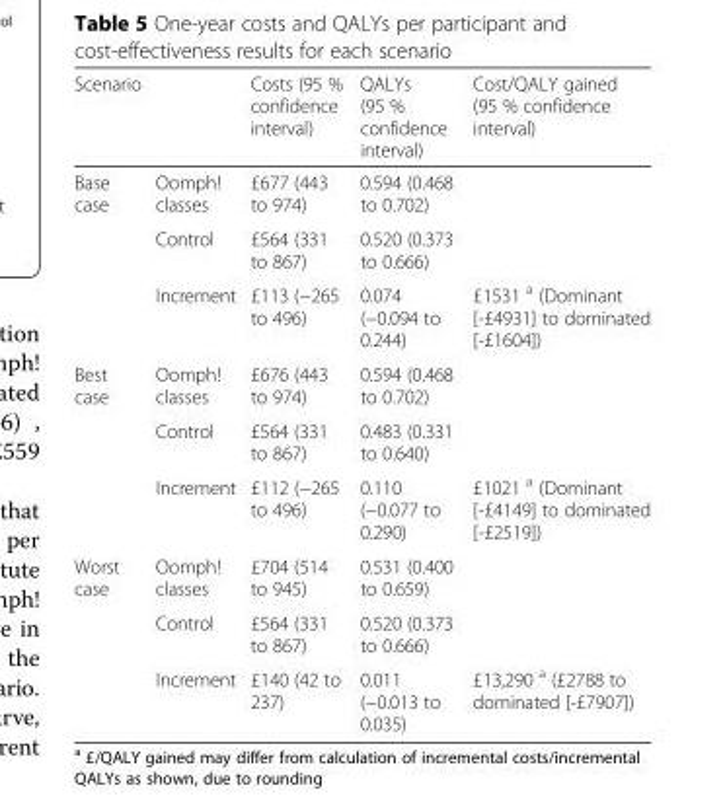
<table><thead><tr><td>Scenario</td><td></td><td>Costs (95 % confidence interval)</td><td>QALYs (95 % confidence interval)</td><td>Cost/QALY gained (95 % confidence interval)</td></tr></thead><tbody><tr><td rowspan="3">Base case</td><td>Oomph! classes</td><td>£677 (443 to 974)</td><td>0.594 (0.468 to 0.702)</td><td></td></tr><tr><td>Control</td><td>£564 (331 to 867)</td><td>0.520 (0.373 to 0.666)</td><td></td></tr><tr><td>Increment</td><td>£113 (−265 to 496)</td><td>0.074 (−0.094 to 0.244)</td><td>£1531 <sup>a</sup> (Dominant [-£4931] to dominated [-£1604])</td></tr><tr><td rowspan="3">Best case</td><td>Oomph! classes</td><td>£676 (443 to 974)</td><td>0.594 (0.468 to 0.702)</td><td></td></tr><tr><td>Control</td><td>£564 (331 to 867)</td><td>0.483 (0.331 to 0.640)</td><td></td></tr><tr><td>Increment</td><td>£112 (−265 to 496)</td><td>0.110 (−0.077 to 0.290)</td><td>£1021 <sup>a</sup> (Dominant [-£4149] to dominated [-£2519])</td></tr><tr><td rowspan="3">Worst case</td><td>Oomph! classes</td><td>£704 (514 to 945)</td><td>0.531 (0.400 to 0.659)</td><td></td></tr><tr><td>Control</td><td>£564 (331 to 867)</td><td>0.520 (0.373 to 0.666)</td><td></td></tr><tr><td>Increment</td><td>£140 (42 to 237)</td><td>0.011 (−0.013 to 0.035)</td><td>£13,290 <sup>a</sup> (£2788 to dominated [-£7907])</td></tr></tbody></table>